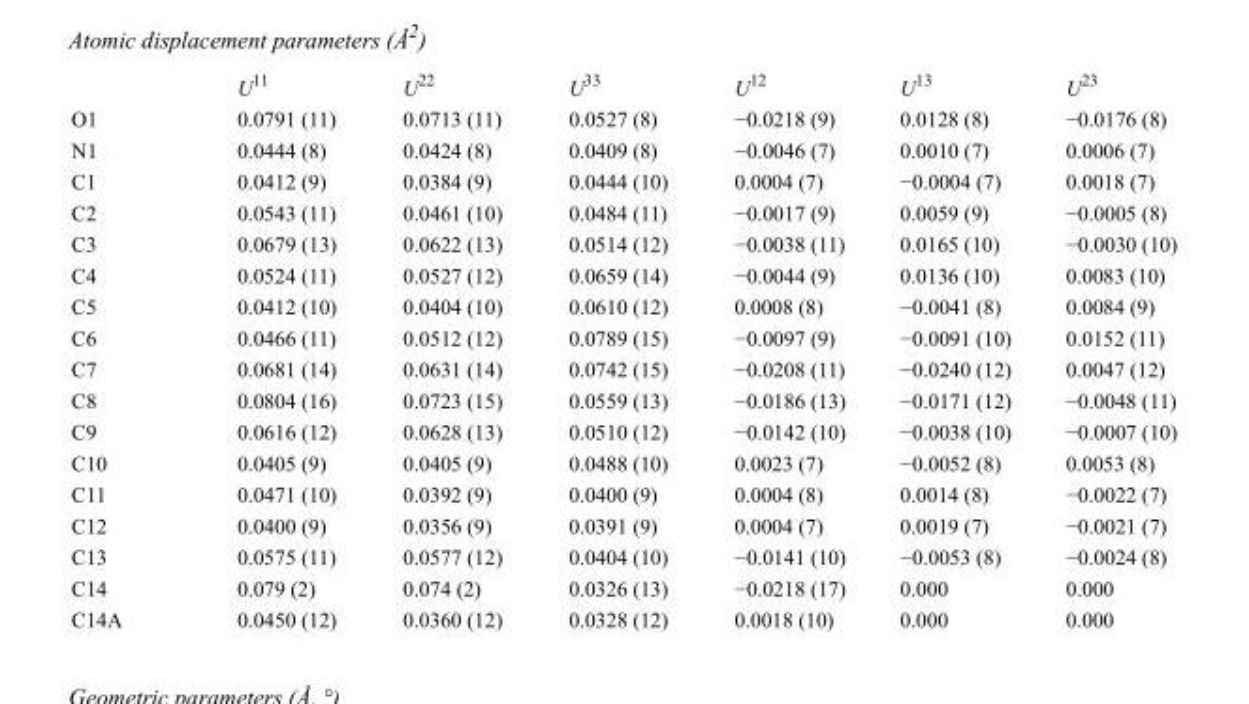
<table><thead><tr><td></td><td>U<sup>11</sup></td><td>U<sup>22</sup></td><td>U<sup>33</sup></td><td>U<sup>12</sup></td><td>U<sup>13</sup></td><td>U<sup>23</sup></td></tr></thead><tbody><tr><td>O1</td><td>0.0791 (11)</td><td>0.0713 (11)</td><td>0.0527 (8)</td><td>−0.0218 (9)</td><td>0.0128 (8)</td><td>−0.0176 (8)</td></tr><tr><td>N1</td><td>0.0444 (8)</td><td>0.0424 (8)</td><td>0.0409 (8)</td><td>−0.0046 (7)</td><td>0.0010 (7)</td><td>0.0006 (7)</td></tr><tr><td>C1</td><td>0.0412 (9)</td><td>0.0384 (9)</td><td>0.0444 (10)</td><td>0.0004 (7)</td><td>−0.0004 (7)</td><td>0.0018 (7)</td></tr><tr><td>C2</td><td>0.0543 (11)</td><td>0.0461 (10)</td><td>0.0484 (11)</td><td>−0.0017 (9)</td><td>0.0059 (9)</td><td>−0.0005 (8)</td></tr><tr><td>C3</td><td>0.0679 (13)</td><td>0.0622 (13)</td><td>0.0514 (12)</td><td>−0.0038 (11)</td><td>0.0165 (10)</td><td>−0.0030 (10)</td></tr><tr><td>C4</td><td>0.0524 (11)</td><td>0.0527 (12)</td><td>0.0659 (14)</td><td>−0.0044 (9)</td><td>0.0136 (10)</td><td>0.0083 (10)</td></tr><tr><td>C5</td><td>0.0412 (10)</td><td>0.0404 (10)</td><td>0.0610 (12)</td><td>0.0008 (8)</td><td>−0.0041 (8)</td><td>0.0084 (9)</td></tr><tr><td>C6</td><td>0.0466 (11)</td><td>0.0512 (12)</td><td>0.0789 (15)</td><td>−0.0097 (9)</td><td>−0.0091 (10)</td><td>0.0152 (11)</td></tr><tr><td>C7</td><td>0.0681 (14)</td><td>0.0631 (14)</td><td>0.0742 (15)</td><td>−0.0208 (11)</td><td>−0.0240 (12)</td><td>0.0047 (12)</td></tr><tr><td>C8</td><td>0.0804 (16)</td><td>0.0723 (15)</td><td>0.0559 (13)</td><td>−0.0186 (13)</td><td>−0.0171 (12)</td><td>−0.0048 (11)</td></tr><tr><td>C9</td><td>0.0616 (12)</td><td>0.0628 (13)</td><td>0.0510 (12)</td><td>−0.0142 (10)</td><td>−0.0038 (10)</td><td>−0.0007 (10)</td></tr><tr><td>C10</td><td>0.0405 (9)</td><td>0.0405 (9)</td><td>0.0488 (10)</td><td>0.0023 (7)</td><td>−0.0052 (8)</td><td>0.0053 (8)</td></tr><tr><td>C11</td><td>0.0471 (10)</td><td>0.0392 (9)</td><td>0.0400 (9)</td><td>0.0004 (8)</td><td>0.0014 (8)</td><td>−0.0022 (7)</td></tr><tr><td>C12</td><td>0.0400 (9)</td><td>0.0356 (9)</td><td>0.0391 (9)</td><td>0.0004 (7)</td><td>0.0019 (7)</td><td>−0.0021 (7)</td></tr><tr><td>C13</td><td>0.0575 (11)</td><td>0.0577 (12)</td><td>0.0404 (10)</td><td>−0.0141 (10)</td><td>−0.0053 (8)</td><td>−0.0024 (8)</td></tr><tr><td>C14</td><td>0.079 (2)</td><td>0.074 (2)</td><td>0.0326 (13)</td><td>−0.0218 (17)</td><td>0.000</td><td>0.000</td></tr><tr><td>C14A</td><td>0.0450 (12)</td><td>0.0360 (12)</td><td>0.0328 (12)</td><td>0.0018 (10)</td><td>0.000</td><td>0.000</td></tr></tbody></table>